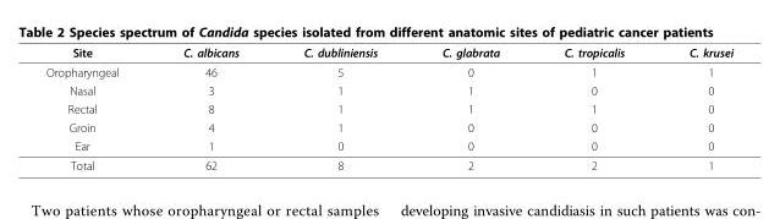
<table><thead><tr><td>Site</td><td>C. albicans</td><td>C. dubliniensis</td><td>C. glabrata</td><td>C. tropicalis</td><td>C. krusei</td></tr></thead><tbody><tr><td>Oropharyngeal</td><td>46</td><td>5</td><td>0</td><td>1</td><td>1</td></tr><tr><td>Nasal</td><td>3</td><td>1</td><td>1</td><td>0</td><td>0</td></tr><tr><td>Rectal</td><td>8</td><td>1</td><td>1</td><td>1</td><td>0</td></tr><tr><td>Groin</td><td>4</td><td>1</td><td>0</td><td>0</td><td>0</td></tr><tr><td>Ear</td><td>1</td><td>0</td><td>0</td><td>0</td><td>0</td></tr><tr><td>Total</td><td>62</td><td>8</td><td>2</td><td>2</td><td>1</td></tr></tbody></table>